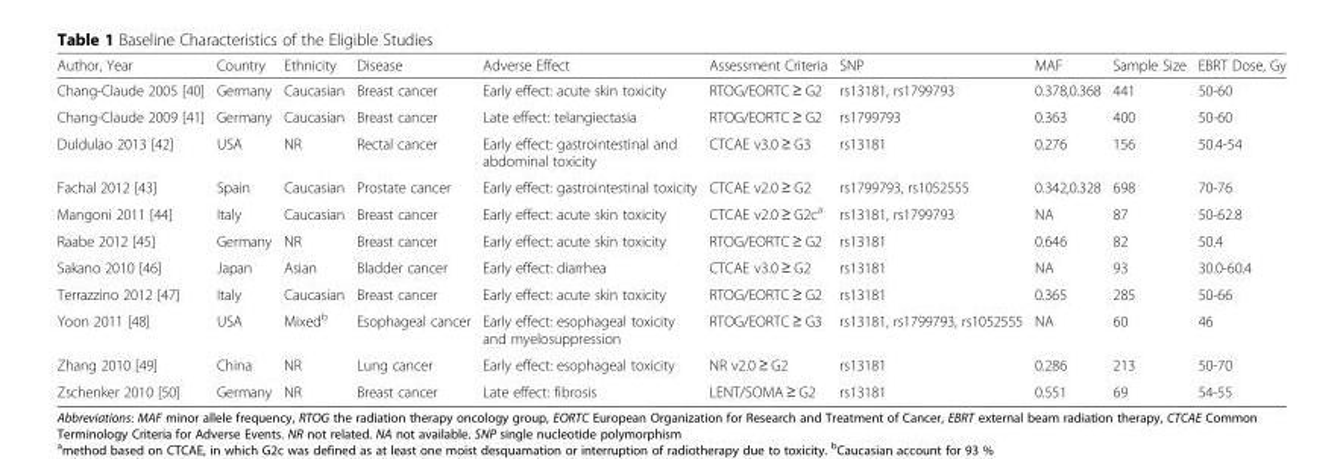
<table><thead><tr><td>Author, Year</td><td>Country</td><td>Ethnicity</td><td>Disease</td><td>Adverse Effect</td><td>Assessment Criteria</td><td>SNP</td><td>MAF</td><td>Sample Size</td><td>EBRT Dose, Gy</td></tr></thead><tbody><tr><td>Chang-Claude 2005 [40]</td><td>Germany</td><td>Caucasian</td><td>Breast cancer</td><td>Early effect: acute skin toxicity</td><td>RTOG/EORTC ≥ G2</td><td>rs13181, rs1799793</td><td>0.378,0.368</td><td>441</td><td>50-60</td></tr><tr><td>Chang-Claude 2009 [41]</td><td>Germany</td><td>Caucasian</td><td>Breast cancer</td><td>Late effect: telangiectasia</td><td>RTOG/EORTC ≥ G2</td><td>rs1799793</td><td>0.363</td><td>400</td><td>50-60</td></tr><tr><td>Duldulao 2013 [42]</td><td>USA</td><td>NR</td><td>Rectal cancer</td><td>Early effect: gastrointestinal and abdominal toxicity</td><td>CTCAE v3.0 ≥ G3</td><td>rs13181</td><td>0.276</td><td>156</td><td>50.4-54</td></tr><tr><td>Fachal 2012 [43]</td><td>Spain</td><td>Caucasian</td><td>Prostate cancer</td><td>Early effect: gastrointestinal toxicity</td><td>CTCAE v2.0 ≥ G2</td><td>rs1799793, rs1052555</td><td>0.342,0.328</td><td>698</td><td>70-76</td></tr><tr><td>Mangoni 2011 [44]</td><td>Italy</td><td>Caucasian</td><td>Breast cancer</td><td>Early effect: acute skin toxicity</td><td>CTCAE v2.0 ≥ G2c<sup>a</sup></td><td>rs13181, rs1799793</td><td>NA</td><td>87</td><td>50-62.8</td></tr><tr><td>Raabe 2012 [45]</td><td>Germany</td><td>NR</td><td>Breast cancer</td><td>Early effect: acute skin toxicity</td><td>RTOG/EORTC ≥ G2</td><td>rs13181</td><td>0.646</td><td>82</td><td>50.4</td></tr><tr><td>Sakano 2010 [46]</td><td>Japan</td><td>Asian</td><td>Bladder cancer</td><td>Early effect: diarrhea</td><td>CTCAE v3.0 ≥ G2</td><td>rs13181</td><td>NA</td><td>93</td><td>30.0-60.4</td></tr><tr><td>Terrazzino 2012 [47]</td><td>Italy</td><td>Caucasian</td><td>Breast cancer</td><td>Early effect: acute skin toxicity</td><td>RTOG/EORTC ≥ G2</td><td>rs13181</td><td>0.365</td><td>285</td><td>50-66</td></tr><tr><td>Yoon 2011 [48]</td><td>USA</td><td>Mixed<sup>b</sup></td><td>Esophageal cancer</td><td>Early effect: esophageal toxicity and myelosuppression</td><td>RTOG/EORTC ≥ G3</td><td>rs13181, rs1799793, rs1052555</td><td>NA</td><td>60</td><td>46</td></tr><tr><td>Zhang 2010 [49]</td><td>China</td><td>NR</td><td>Lung cancer</td><td>Early effect: esophageal toxicity</td><td>NR v2.0 ≥ G2</td><td>rs13181</td><td>0.286</td><td>213</td><td>50-70</td></tr><tr><td>Zschenker 2010 [50]</td><td>Germany</td><td>NR</td><td>Breast cancer</td><td>Late effect: fibrosis</td><td>LENT/SOMA ≥ G2</td><td>rs13181</td><td>0.551</td><td>69</td><td>54-55</td></tr></tbody></table>